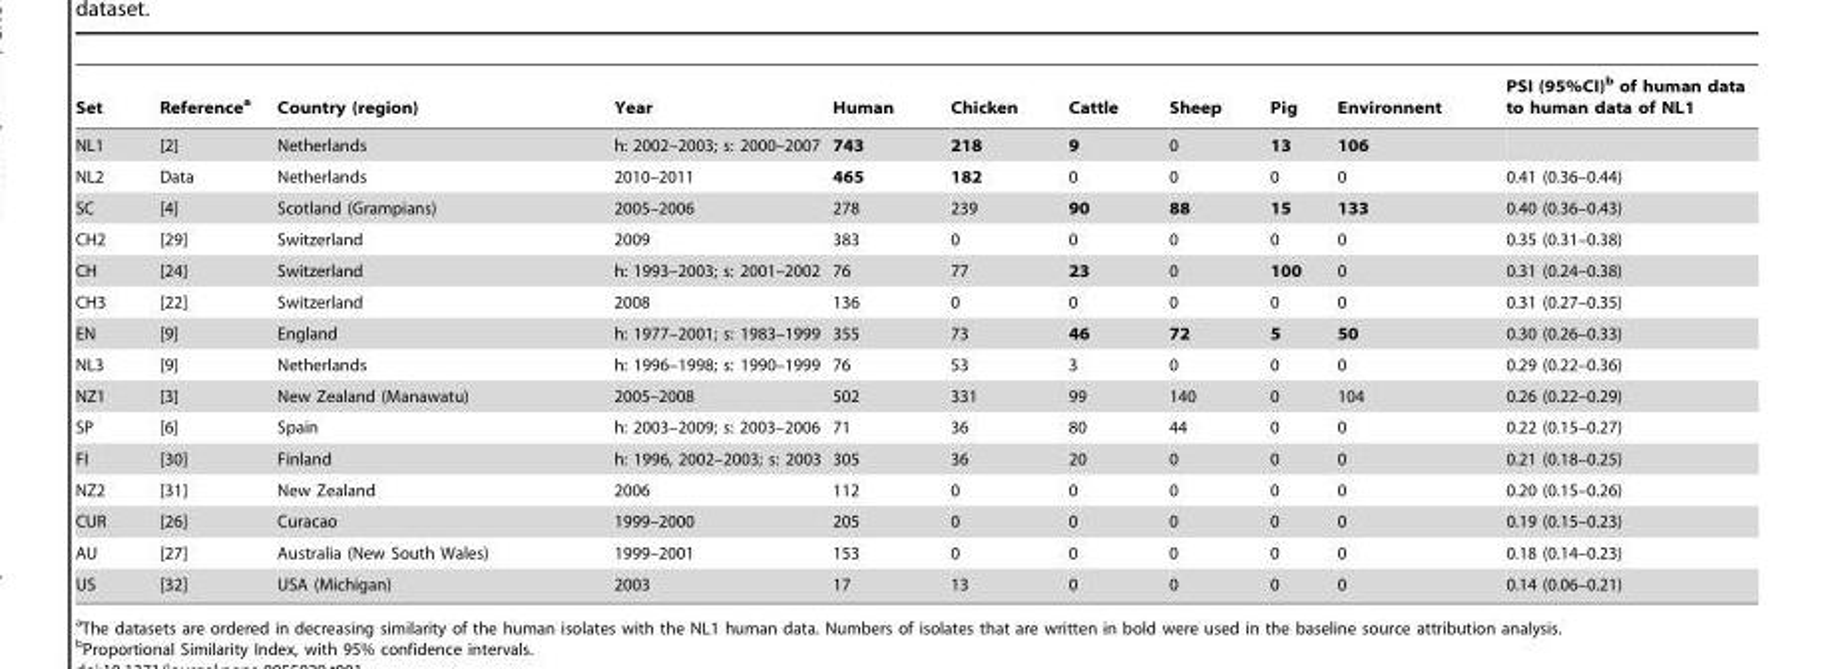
<table><thead><tr><td>Set</td><td>Reference<sup>a</sup></td><td>Country (region)</td><td>Year</td><td>Human</td><td>Chicken</td><td>Cattle</td><td>Sheep</td><td>Pig</td><td>Environnent</td><td>PSI (95%CI)<sup>b</sup> of human data to human data of NL1</td></tr></thead><tbody><tr><td>NL1</td><td>[2]</td><td>Netherlands</td><td>h: 2002–2003; s: 2000–2007</td><td>743</td><td>218</td><td>9</td><td>0</td><td>13</td><td>106</td><td></td></tr><tr><td>NL2</td><td>Data</td><td>Netherlands</td><td>2010–2011</td><td>465</td><td>182</td><td>0</td><td>0</td><td>0</td><td>0</td><td>0.41 (0.36–0.44)</td></tr><tr><td>SC</td><td>[4]</td><td>Scotland (Grampians)</td><td>2005–2006</td><td>278</td><td>239</td><td>90</td><td>88</td><td>15</td><td>133</td><td>0.40 (0.36–0.43)</td></tr><tr><td>CH2</td><td>[29]</td><td>Switzerland</td><td>2009</td><td>383</td><td>0</td><td>0</td><td>0</td><td>0</td><td>0</td><td>0.35 (0.31–0.38)</td></tr><tr><td>CH</td><td>[24]</td><td>Switzerland</td><td>h: 1993–2003; s: 2001–2002</td><td>76</td><td>77</td><td>23</td><td>0</td><td>100</td><td>0</td><td>0.31 (0.24–0.38)</td></tr><tr><td>CH3</td><td>[22]</td><td>Switzerland</td><td>2008</td><td>136</td><td>0</td><td>0</td><td>0</td><td>0</td><td>0</td><td>0.31 (0.27–0.35)</td></tr><tr><td>EN</td><td>[9]</td><td>England</td><td>h: 1977–2001; s: 1983–1999</td><td>355</td><td>73</td><td>46</td><td>72</td><td>5</td><td>50</td><td>0.30 (0.26–0.33)</td></tr><tr><td>NL3</td><td>[9]</td><td>Netherlands</td><td>h: 1996–1998; s: 1990–1999</td><td>76</td><td>53</td><td>3</td><td>0</td><td>0</td><td>0</td><td>0.29 (0.22–0.36)</td></tr><tr><td>NZ1</td><td>[3]</td><td>New Zealand (Manawatu)</td><td>2005–2008</td><td>502</td><td>331</td><td>99</td><td>140</td><td>0</td><td>104</td><td>0.26 (0.22–0.29)</td></tr><tr><td>SP</td><td>[6]</td><td>Spain</td><td>h: 2003–2009; s: 2003–2006</td><td>71</td><td>36</td><td>80</td><td>44</td><td>0</td><td>0</td><td>0.22 (0.15–0.27)</td></tr><tr><td>FI</td><td>[30]</td><td>Finland</td><td>h: 1996, 2002–2003; s: 2003</td><td>305</td><td>36</td><td>20</td><td>0</td><td>0</td><td>0</td><td>0.21 (0.18–0.25)</td></tr><tr><td>NZ2</td><td>[31]</td><td>New Zealand</td><td>2006</td><td>112</td><td>0</td><td>0</td><td>0</td><td>0</td><td>0</td><td>0.20 (0.15–0.26)</td></tr><tr><td>CUR</td><td>[26]</td><td>Curacao</td><td>1999–2000</td><td>205</td><td>0</td><td>0</td><td>0</td><td>0</td><td>0</td><td>0.19 (0.15–0.23)</td></tr><tr><td>AU</td><td>[27]</td><td>Australia (New South Wales)</td><td>1999–2001</td><td>153</td><td>0</td><td>0</td><td>0</td><td>0</td><td>0</td><td>0.18 (0.14–0.23)</td></tr><tr><td>US</td><td>[32]</td><td>USA (Michigan)</td><td>2003</td><td>17</td><td>13</td><td>0</td><td>0</td><td>0</td><td>0</td><td>0.14 (0.06–0.21)</td></tr></tbody></table>